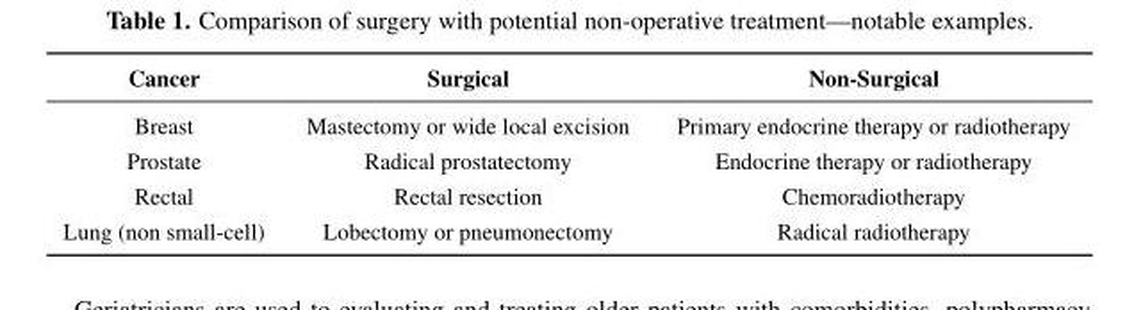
<table><thead><tr><td>Cancer</td><td>Surgical</td><td>Non-Surgical</td></tr></thead><tbody><tr><td>Breast</td><td>Mastectomy or wide local excision</td><td>Primary endocrine therapy or radiotherapy</td></tr><tr><td>Prostate</td><td>Radical prostatectomy</td><td>Endocrine therapy or radiotherapy</td></tr><tr><td>Rectal</td><td>Rectal resection</td><td>Chemoradiotherapy</td></tr><tr><td>Lung (non small-cell)</td><td>Lobectomy or pneumonectomy</td><td>Radical radiotherapy</td></tr></tbody></table>